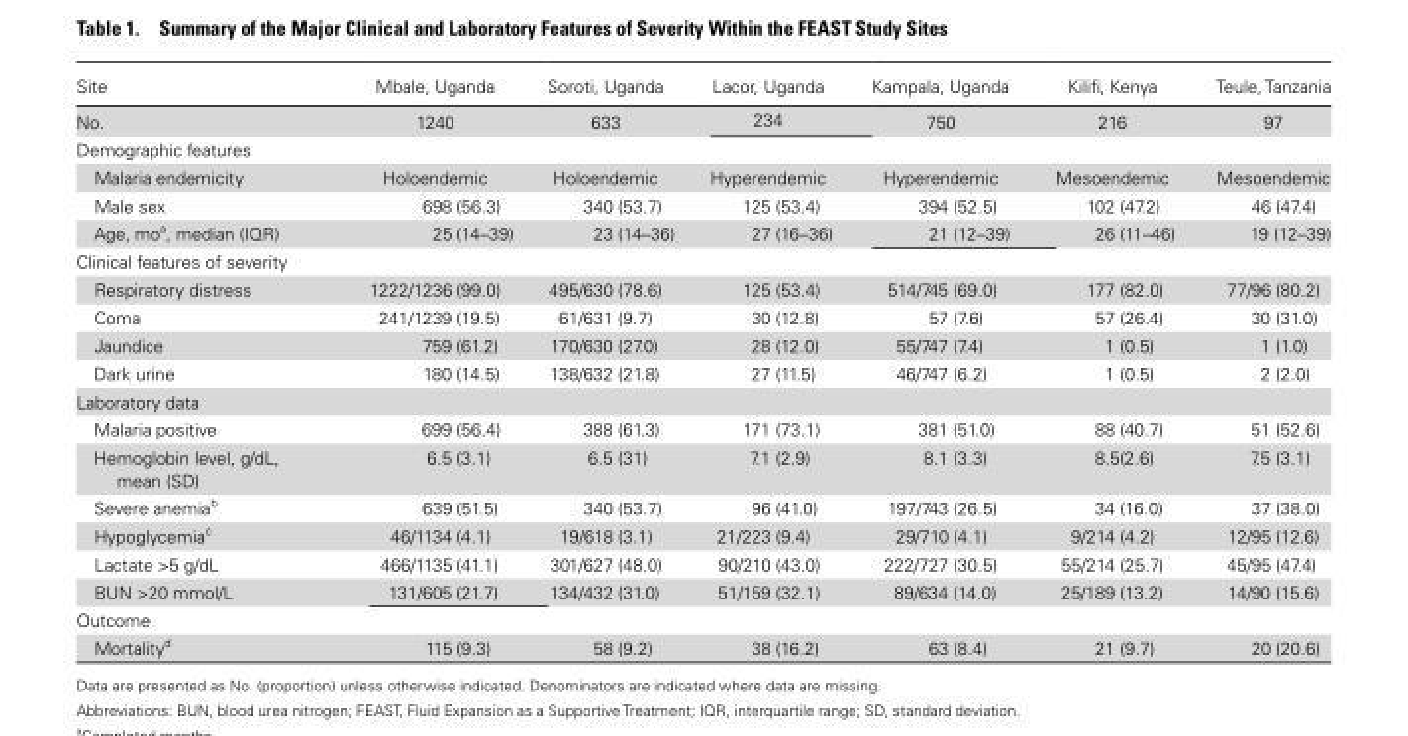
<table><thead><tr><td>Site</td><td>Mbale, Uganda</td><td>Soroti, Uganda</td><td>Lacor, Uganda</td><td>Kampala, Uganda</td><td>Kilifi, Kenya</td><td>Teule, Tanzania</td></tr></thead><tbody><tr><td>No.</td><td>1240</td><td>633</td><td>234</td><td>750</td><td>216</td><td>97</td></tr><tr><td colspan="7">Demographic features</td></tr><tr><td>Malaria endemicity</td><td>Holoendemic</td><td>Holoendemic</td><td>Hyperendemic</td><td>Hyperendemic</td><td>Mesoendemic</td><td>Mesoendemic</td></tr><tr><td>Male sex</td><td>698 (56.3)</td><td>340 (53.7)</td><td>125 (53.4)</td><td>394 (52.5)</td><td>102 (47.2)</td><td>46 (47.4)</td></tr><tr><td>Age, mo<sup>a</sup>, median (IQR)</td><td>25 (14–39)</td><td>23 (14–36)</td><td>27 (16–36)</td><td>21 (12–39)</td><td>26 (11–46)</td><td>19 (12–39)</td></tr><tr><td colspan="7">Clinical features of severity</td></tr><tr><td>Respiratory distress</td><td>1222/1236 (99.0)</td><td>495/630 (78.6)</td><td>125 (53.4)</td><td>514/745 (69.0)</td><td>177 (82.0)</td><td>77/96 (80.2)</td></tr><tr><td>Coma</td><td>241/1239 (19.5)</td><td>61/631 (9.7)</td><td>30 (12.8)</td><td>57 (7.6)</td><td>57 (26.4)</td><td>30 (31.0)</td></tr><tr><td>Jaundice</td><td>759 (61.2)</td><td>170/630 (27.0)</td><td>28 (12.0)</td><td>55/747 (7.4)</td><td>1 (0.5)</td><td>1 (1.0)</td></tr><tr><td>Dark urine</td><td>180 (14.5)</td><td>138/632 (21.8)</td><td>27 (11.5)</td><td>46/747 (6.2)</td><td>1 (0.5)</td><td>2 (2.0)</td></tr><tr><td colspan="7">Laboratory data</td></tr><tr><td>Malaria positive</td><td>699 (56.4)</td><td>388 (61.3)</td><td>171 (73.1)</td><td>381 (51.0)</td><td>88 (40.7)</td><td>51 (52.6)</td></tr><tr><td>Hemoglobin level, g/dL, mean (SD)</td><td>6.5 (3.1)</td><td>6.5 (31)</td><td>7.1 (2.9)</td><td>8.1 (3.3)</td><td>8.5(2.6)</td><td>7.5 (3.1)</td></tr><tr><td>Severe anemia<sup>b</sup></td><td>639 (51.5)</td><td>340 (53.7)</td><td>96 (41.0)</td><td>197/743 (26.5)</td><td>34 (16.0)</td><td>37 (38.0)</td></tr><tr><td>Hypoglycemia<sup>c</sup></td><td>46/1134 (4.1)</td><td>19/618 (3.1)</td><td>21/223 (9.4)</td><td>29/710 (4.1)</td><td>9/214 (4.2)</td><td>12/95 (12.6)</td></tr><tr><td>Lactate &gt;5 g/dL</td><td>466/1135 (41.1)</td><td>301/627 (48.0)</td><td>90/210 (43.0)</td><td>222/727 (30.5)</td><td>55/214 (25.7)</td><td>45/95 (47.4)</td></tr><tr><td>BUN &gt;20 mmol/L</td><td>131/605 (21.7)</td><td>134/432 (31.0)</td><td>51/159 (32.1)</td><td>89/634 (14.0)</td><td>25/189 (13.2)</td><td>14/90 (15.6)</td></tr><tr><td colspan="7">Outcome</td></tr><tr><td>Mortality<sup>d</sup></td><td>115 (9.3)</td><td>58 (9.2)</td><td>38 (16.2)</td><td>63 (8.4)</td><td>21 (9.7)</td><td>20 (20.6)</td></tr></tbody></table>